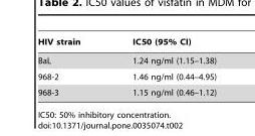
<table><thead><tr><td>HIV strain</td><td>IC50 (95% CI)</td></tr></thead><tbody><tr><td>BaL</td><td>1.24 ng/ml (1.15–1.38)</td></tr><tr><td>968-2</td><td>1.46 ng/ml (0.44–4.95)</td></tr><tr><td>968-3</td><td>1.15 ng/ml (0.46–1.12)</td></tr></tbody></table>